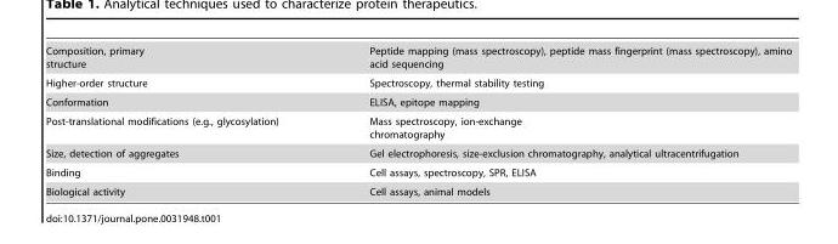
<table><tbody><tr><td>Composition, primary structure</td><td>Peptide mapping (mass spectroscopy), peptide mass fingerprint (mass spectroscopy), amino acid sequencing</td></tr><tr><td>Higher-order structure</td><td>Spectroscopy, thermal stability testing</td></tr><tr><td>Conformation</td><td>ELISA, epitope mapping</td></tr><tr><td>Post-translational modifications (e.g., glycosylation)</td><td>Mass spectroscopy, ion-exchange chromatography</td></tr><tr><td>Size, detection of aggregates</td><td>Gel electrophoresis, size-exclusion chromatography, analytical ultracentrifugation</td></tr><tr><td>Binding</td><td>Cell assays, spectroscopy, SPR, ELISA</td></tr><tr><td>Biological activity</td><td>Cell assays, animal models</td></tr></tbody></table>